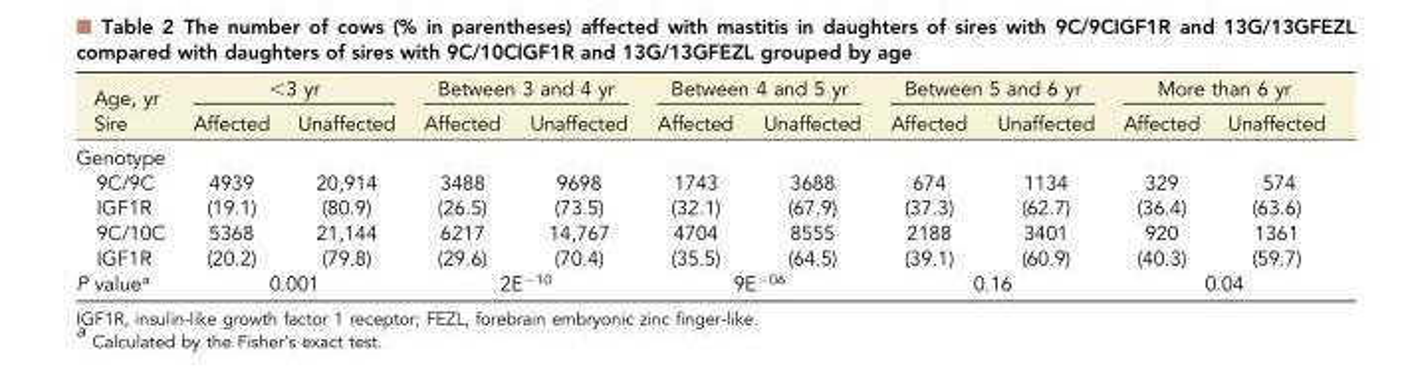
<table><thead><tr><td rowspan="2">Age, yr Sire</td><td colspan="2">&lt;3 yr</td><td colspan="2">Between 3 and 4 yr</td><td colspan="2">Between 4 and 5 yr</td><td colspan="2">Between 5 and 6 yr</td><td colspan="2">More than 6 yr</td></tr><tr><td>Affected</td><td>Unaffected</td><td>Affected</td><td>Unaffected</td><td>Affected</td><td>Unaffected</td><td>Affected</td><td>Unaffected</td><td>Affected</td><td>Unaffected</td></tr></thead><tbody><tr><td colspan="11">Genotype</td></tr><tr><td>9C/9C</td><td>4939</td><td>20,914</td><td>3488</td><td>9698</td><td>1743</td><td>3688</td><td>674</td><td>1134</td><td>329</td><td>574</td></tr><tr><td>IGF1R</td><td>(19.1)</td><td>(80.9)</td><td>(26.5)</td><td>(73.5)</td><td>(32.1)</td><td>(67.9)</td><td>(37.3)</td><td>(62.7)</td><td>(36.4)</td><td>(63.6)</td></tr><tr><td>9C/10C</td><td>5368</td><td>21,144</td><td>6217</td><td>14,767</td><td>4704</td><td>8555</td><td>2188</td><td>3401</td><td>920</td><td>1361</td></tr><tr><td>IGF1R</td><td>(20.2)</td><td>(79.8)</td><td>(29.6)</td><td>(70.4)</td><td>(35.5)</td><td>(64.5)</td><td>(39.1)</td><td>(60.9)</td><td>(40.3)</td><td>(59.7)</td></tr><tr><td>P value<sup>a</sup></td><td colspan="2">0.001</td><td colspan="2">2E<sup>−10</sup></td><td colspan="2">9E<sup>−06</sup></td><td colspan="2">0.16</td><td colspan="2">0.04</td></tr></tbody></table>